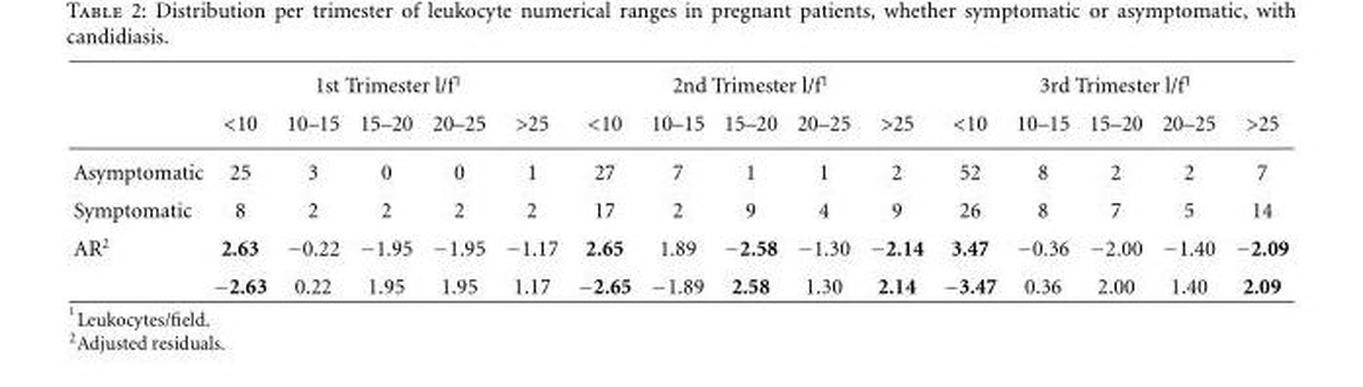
<table><thead><tr><td rowspan="2"></td><td colspan="5">1st Trimester l/f<sup>1</sup></td><td colspan="5">2nd Trimester l/f<sup>1</sup></td><td colspan="5">3rd Trimester l/f<sup>1</sup></td></tr><tr><td>&lt;10</td><td>10–15</td><td>15–20</td><td>20–25</td><td>&gt;25</td><td>&lt;10</td><td>10–15</td><td>15–20</td><td>20–25</td><td>&gt;25</td><td>&lt;10</td><td>10–15</td><td>15–20</td><td>20–25</td><td>&gt;25</td></tr></thead><tbody><tr><td>Asymptomatic</td><td>25</td><td>3</td><td>0</td><td>0</td><td>1</td><td>27</td><td>7</td><td>1</td><td>1</td><td>2</td><td>52</td><td>8</td><td>2</td><td>2</td><td>7</td></tr><tr><td>Symptomatic</td><td>8</td><td>2</td><td>2</td><td>2</td><td>2</td><td>17</td><td>2</td><td>9</td><td>4</td><td>9</td><td>26</td><td>8</td><td>7</td><td>5</td><td>14</td></tr><tr><td rowspan="2">AR<sup>2</sup></td><td>2.63</td><td>−0.22</td><td>−1.95</td><td>−1.95</td><td>−1.17</td><td>2.65</td><td>1.89</td><td>−2.58</td><td>−1.30</td><td>−2.14</td><td>3.47</td><td>−0.36</td><td>−2.00</td><td>−1.40</td><td>−2.09</td></tr><tr><td>−2.63</td><td>0.22</td><td>1.95</td><td>1.95</td><td>1.17</td><td>−2.65</td><td>−1.89</td><td>2.58</td><td>1.30</td><td>2.14</td><td>−3.47</td><td>0.36</td><td>2.00</td><td>1.40</td><td>2.09</td></tr></tbody></table>